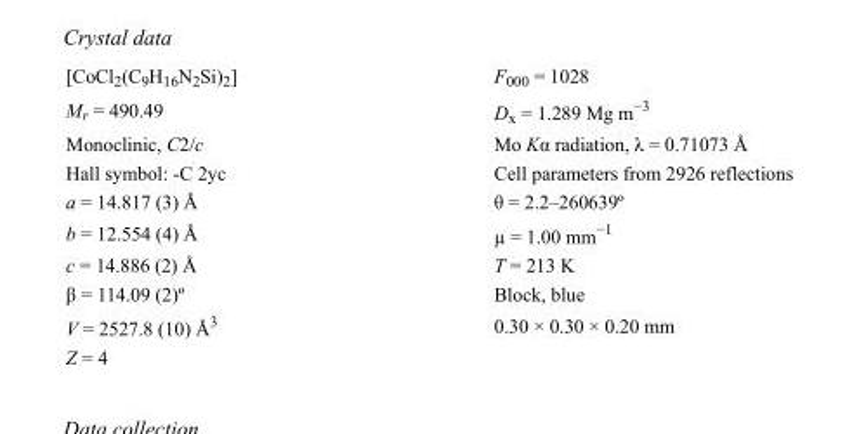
<table><tbody><tr><td>[CoCl<sub>2</sub>(C<sub>9</sub>H<sub>16</sub>N<sub>2</sub>Si)<sub>2</sub>]</td><td>F000 = 1028</td></tr><tr><td>M<sub>r</sub> = 490.49</td><td>D<sub>x</sub> = 1.289 Mg m<sup>−3</sup></td></tr><tr><td>Monoclinic, C2/c</td><td>Mo Kα radiation, λ = 0.71073 Å</td></tr><tr><td>Hall symbol: -C 2yc</td><td>Cell parameters from 2926 reflections</td></tr><tr><td>a = 14.817 (3) Å</td><td>θ = 2.2–260639º</td></tr><tr><td>b = 12.554 (4) Å</td><td>µ = 1.00 mm<sup>−1</sup></td></tr><tr><td>c = 14.886 (2) Å</td><td>T = 213 K</td></tr><tr><td>β = 114.09 (2)º</td><td>Block, blue</td></tr><tr><td>V = 2527.8 (10) Å<sup>3</sup></td><td>0.30 × 0.30 × 0.20 mm</td></tr><tr><td>Z = 4</td><td></td></tr></tbody></table>